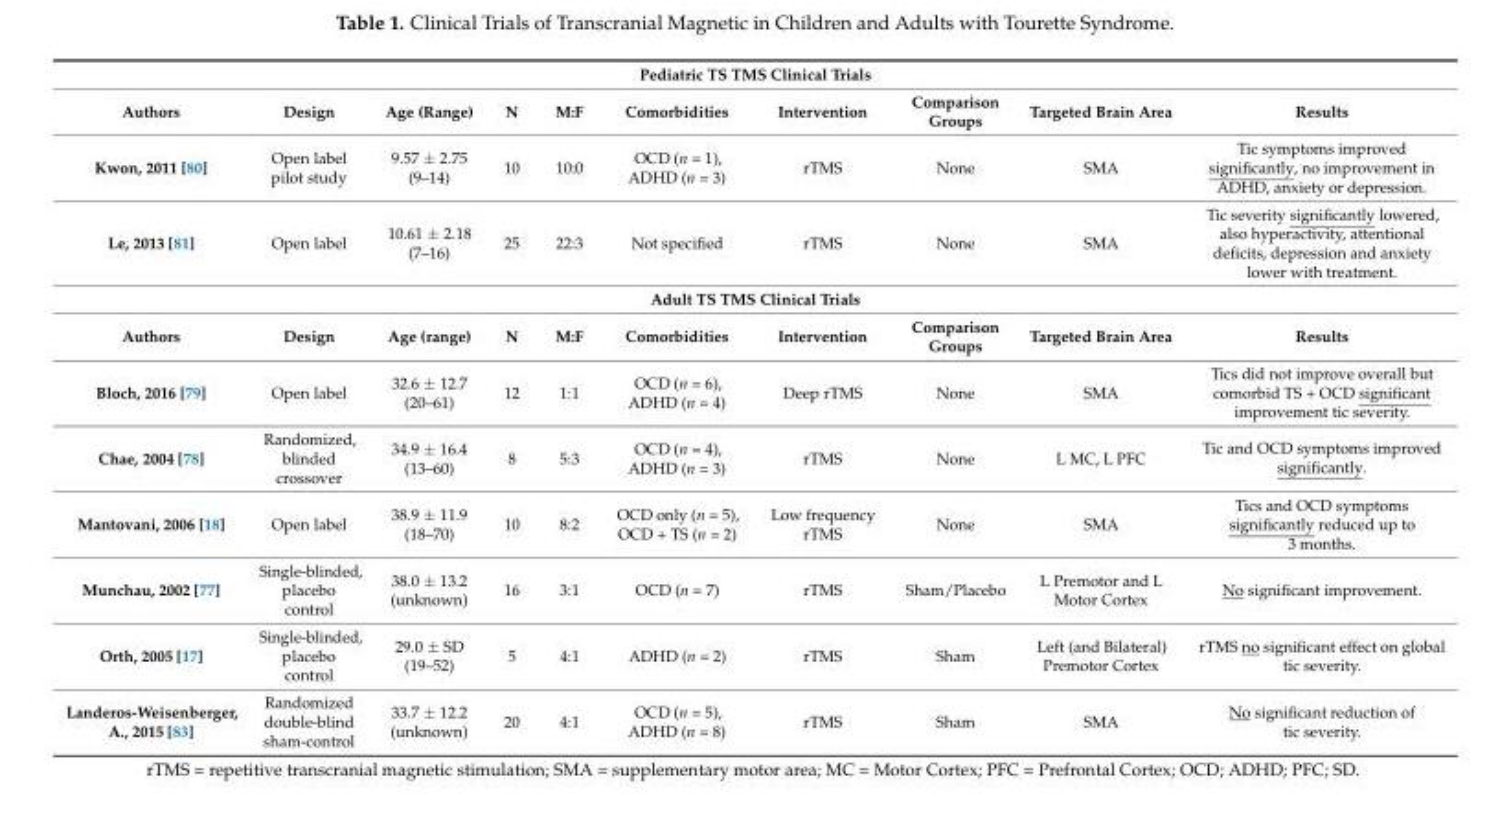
<table><tbody><tr><td colspan="10">Pediatric TS TMS Clinical Trials</td></tr><tr><td>Authors</td><td>Design</td><td>Age (Range)</td><td>N</td><td>M:F</td><td>Comorbidities</td><td>Intervention</td><td>Comparison Groups</td><td>Targeted Brain Area</td><td>Results</td></tr><tr><td>Kwon, 2011 [80]</td><td>Open label pilot study</td><td>9.57 ± 2.75 (9–14)</td><td>10</td><td>10:0</td><td>OCD (n = 1), ADHD (n = 3)</td><td>rTMS</td><td>None</td><td>SMA</td><td>Tic symptoms improved significantly, no improvement in ADHD, anxiety or depression.</td></tr><tr><td>Le, 2013 [81]</td><td>Open label</td><td>10.61 ± 2.18 (7–16)</td><td>25</td><td>22:3</td><td>Not specified</td><td>rTMS</td><td>None</td><td>SMA</td><td>Tic severity significantly lowered, also hyperactivity, attentional deficits, depression and anxiety lower with treatment.</td></tr><tr><td colspan="10">Adult TS TMS Clinical Trials</td></tr><tr><td>Authors</td><td>Design</td><td>Age (range)</td><td>N</td><td>M:F</td><td>Comorbidities</td><td>Intervention</td><td>Comparison Groups</td><td>Targeted Brain Area</td><td>Results</td></tr><tr><td>Bloch, 2016 [79]</td><td>Open label</td><td>32.6 ± 12.7 (20–61)</td><td>12</td><td>1:1</td><td>OCD (n = 6), ADHD (n = 4)</td><td>Deep rTMS</td><td>None</td><td>SMA</td><td>Tics did not improve overall but comorbid TS + OCD significant improvement tic severity.</td></tr><tr><td>Chae, 2004 [78]</td><td>Randomized, blinded crossover</td><td>34.9 ± 16.4 (13–60)</td><td>8</td><td>5:3</td><td>OCD (n = 4), ADHD (n = 3)</td><td>rTMS</td><td>None</td><td>L MC, L PFC</td><td>Tic and OCD symptoms improved significantly.</td></tr><tr><td>Mantovani, 2006 [18]</td><td>Open label</td><td>38.9 ± 11.9 (18–70)</td><td>10</td><td>8:2</td><td>OCD only (n = 5), OCD + TS (n = 2)</td><td>Low frequency rTMS</td><td>None</td><td>SMA</td><td>Tics and OCD symptoms significantly reduced up to 3 months.</td></tr><tr><td>Munchau, 2002 [77]</td><td>Single-blinded, placebo control</td><td>38.0 ± 13.2 (unknown)</td><td>16</td><td>3:1</td><td>OCD (n = 7)</td><td>rTMS</td><td>Sham/Placebo</td><td>L Premotor and L Motor Cortex</td><td>No significant improvement.</td></tr><tr><td>Orth, 2005 [17]</td><td>Single-blinded, placebo control</td><td>29.0 ± SD (19–52)</td><td>5</td><td>4:1</td><td>ADHD (n = 2)</td><td>rTMS</td><td>Sham</td><td>Left (and Bilateral) Premotor Cortex</td><td>rTMS no significant effect on global tic severity.</td></tr><tr><td>Landeros-Weisenberger, A., 2015 [83]</td><td>Randomized double-blind sham-control</td><td>33.7 ± 12.2 (unknown)</td><td>20</td><td>4:1</td><td>OCD (n = 5), ADHD (n = 8)</td><td>rTMS</td><td>Sham</td><td>SMA</td><td>No significant reduction of tic severity.</td></tr></tbody></table>